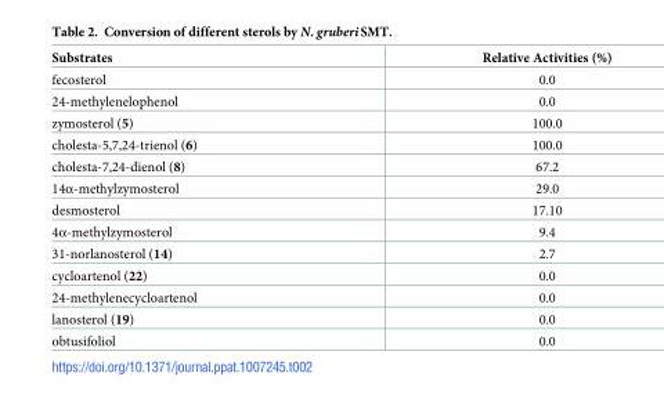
<table><thead><tr><td>Substrates</td><td>Relative Activities (%)</td></tr></thead><tbody><tr><td>fecosterol</td><td>0.0</td></tr><tr><td>24-methylenelophenol</td><td>0.0</td></tr><tr><td>zymosterol (5)</td><td>100.0</td></tr><tr><td>cholesta-5,7,24-trienol (6)</td><td>100.0</td></tr><tr><td>cholesta-7,24-dienol (8)</td><td>67.2</td></tr><tr><td>14α-methylzymosterol</td><td>29.0</td></tr><tr><td>desmosterol</td><td>17.10</td></tr><tr><td>4α-methylzymosterol</td><td>9.4</td></tr><tr><td>31-norlanosterol (14)</td><td>2.7</td></tr><tr><td>cycloartenol (22)</td><td>0.0</td></tr><tr><td>24-methylenecycloartenol</td><td>0.0</td></tr><tr><td>lanosterol (19)</td><td>0.0</td></tr><tr><td>obtusifoliol</td><td>0.0</td></tr></tbody></table>